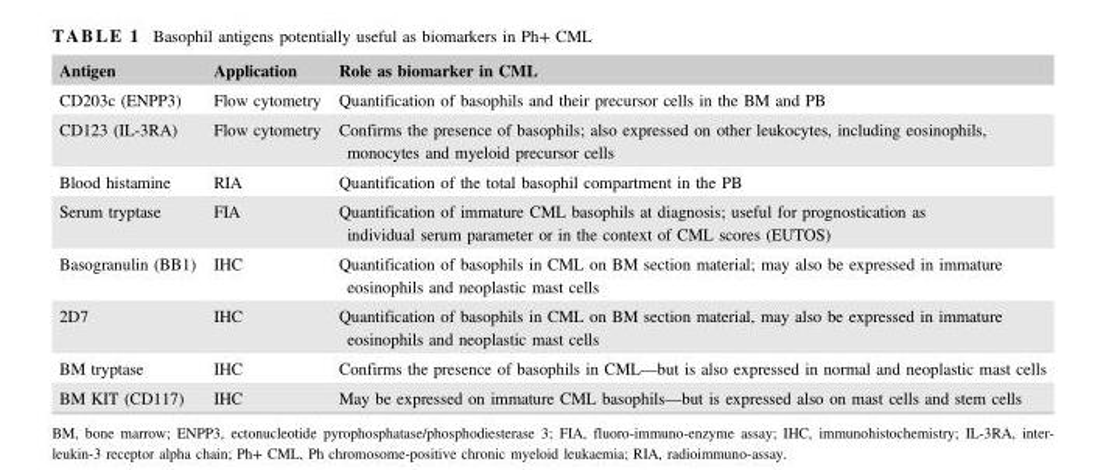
<table><thead><tr><td>Antigen</td><td>Application</td><td>Role as biomarker in CML</td></tr></thead><tbody><tr><td>CD203c (ENPP3)</td><td>Flow cytometry</td><td>Quantification of basophils and their precursor cells in the BM and PB</td></tr><tr><td>CD123 (IL‐3RA)</td><td>Flow cytometry</td><td>Confirms the presence of basophils; also expressed on other leukocytes, including eosinophils, monocytes and myeloid precursor cells</td></tr><tr><td>Blood histamine</td><td>RIA</td><td>Quantification of the total basophil compartment in the PB</td></tr><tr><td>Serum tryptase</td><td>FIA</td><td>Quantification of immature CML basophils at diagnosis; useful for prognostication as individual serum parameter or in the context of CML scores (EUTOS)</td></tr><tr><td>Basogranulin (BB1)</td><td>IHC</td><td>Quantification of basophils in CML on BM section material; may also be expressed in immature eosinophils and neoplastic mast cells</td></tr><tr><td>2D7</td><td>IHC</td><td>Quantification of basophils in CML on BM section material, may also be expressed in immature eosinophils and neoplastic mast cells</td></tr><tr><td>BM tryptase</td><td>IHC</td><td>Confirms the presence of basophils in CML—but is also expressed in normal and neoplastic mast cells</td></tr><tr><td>BM KIT (CD117)</td><td>IHC</td><td>May be expressed on immature CML basophils—but is expressed also on mast cells and stem cells</td></tr></tbody></table>